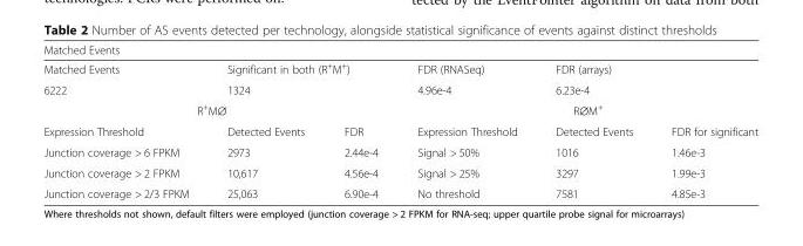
<table><thead><tr><td colspan="6">Matched Events</td></tr></thead><tbody><tr><td>Matched Events</td><td colspan="2">Significant in both (R<sup>+</sup>M<sup>+</sup>)</td><td>FDR (RNASeq)</td><td colspan="2">FDR (arrays)</td></tr><tr><td>6222</td><td colspan="2">1324</td><td>4.96e-4</td><td colspan="2">6.23e-4</td></tr><tr><td colspan="3">R<sup>+</sup>M∅</td><td colspan="3">R∅M<sup>+</sup></td></tr><tr><td>Expression Threshold</td><td>Detected Events</td><td>FDR</td><td>Expression Threshold</td><td>Detected Events</td><td>FDR for significant</td></tr><tr><td>Junction coverage &gt; 6 FPKM</td><td>2973</td><td>2.44e-4</td><td>Signal &gt; 50%</td><td>1016</td><td>1.46e-3</td></tr><tr><td>Junction coverage &gt; 2 FPKM</td><td>10,617</td><td>4.56e-4</td><td>Signal &gt; 25%</td><td>3297</td><td>1.99e-3</td></tr><tr><td>Junction coverage &gt; 2/3 FPKM</td><td>25,063</td><td>6.90e-4</td><td>No threshold</td><td>7581</td><td>4.85e-3</td></tr></tbody></table>